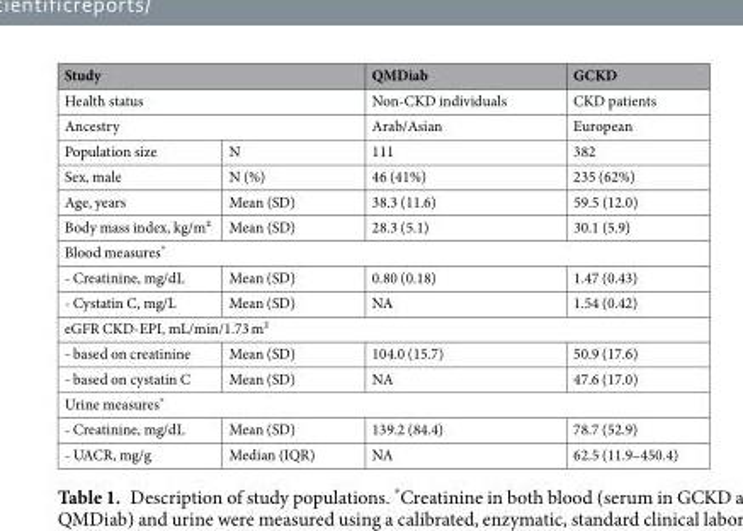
<table><thead><tr><td rowspan="3" colspan="2">Study Health status Ancestry</td><td rowspan="4">QMDiab Non-CKD individuals Arab/Asian 111</td><td rowspan="4">GCKD CKD patients European 382</td></tr><tr></tr><tr></tr><tr><td>Population size</td><td>N</td></tr></thead><tbody><tr><td>Sex, male</td><td>N (%)</td><td>46 (41%)</td><td>235 (62%)</td></tr><tr><td>Age, years</td><td>Mean (SD)</td><td>38.3 (11.6)</td><td>59.5 (12.0)</td></tr><tr><td>Body mass index, kg/m²</td><td>Mean (SD)</td><td>28.3 (5.1)</td><td>30.1 (5.9)</td></tr><tr><td colspan="4">Blood measures*</td></tr><tr><td>- Creatinine, mg/dL</td><td>Mean (SD)</td><td>0.80 (0.18)</td><td>1.47 (0.43)</td></tr><tr><td>- Cystatin C, mg/L</td><td>Mean (SD)</td><td>NA</td><td>1.54 (0.42)</td></tr><tr><td colspan="4">eGFR CKD-EPI, mL/min/1.73 m²</td></tr><tr><td>- based on creatinine</td><td>Mean (SD)</td><td>104.0 (15.7)</td><td>50.9 (17.6)</td></tr><tr><td>- based on cystatin C</td><td>Mean (SD)</td><td>NA</td><td>47.6 (17.0)</td></tr><tr><td colspan="4">Urine measures*</td></tr><tr><td>- Creatinine, mg/dL</td><td>Mean (SD)</td><td>139.2 (84.4)</td><td>78.7 (52.9)</td></tr><tr><td>- UACR, mg/g</td><td>Median (IQR)</td><td>NA</td><td>62.5 (11.9–450.4)</td></tr></tbody></table>